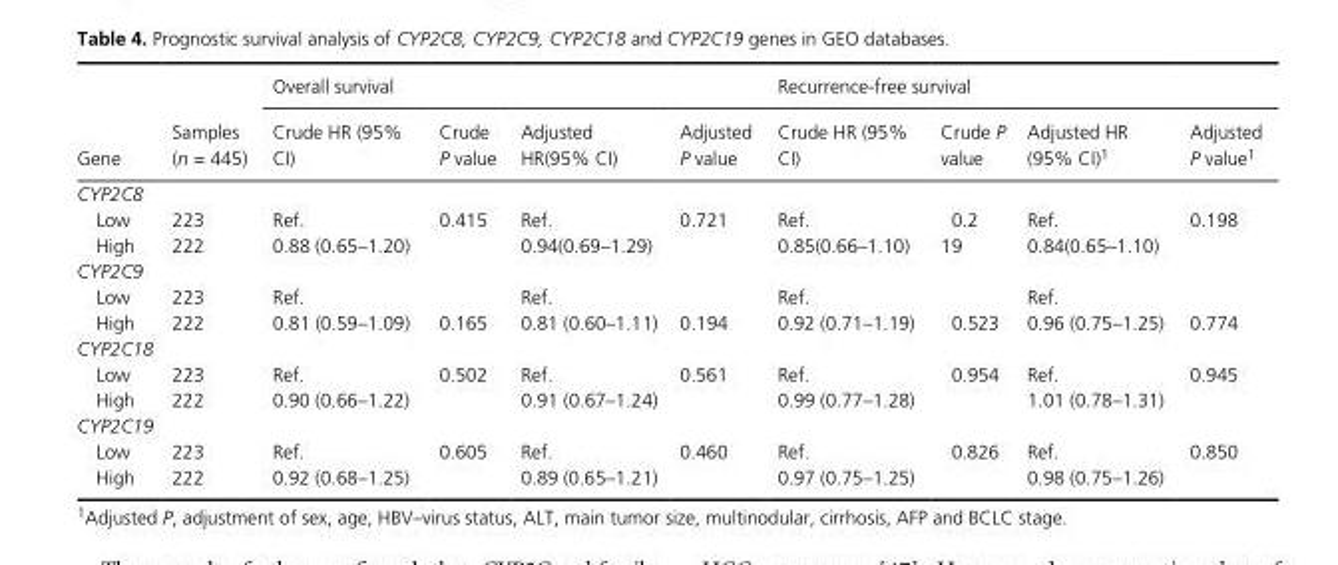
<table><thead><tr><td rowspan="2">Gene</td><td rowspan="2">Samples (n = 445)</td><td colspan="4">Overall survival</td><td colspan="4">Recurrence- free survival</td></tr><tr><td>Crude HR (95% CI)</td><td>Crude P value</td><td>Adjusted HR(95% CI)</td><td>Adjusted P value</td><td>Crude HR (95% CI)</td><td>Crude P value</td><td>Adjusted HR (95% CI)1</td><td>Adjusted P value1</td></tr></thead><tbody><tr><td colspan="10">CYP2C8</td></tr><tr><td>Low</td><td>223</td><td>Ref.</td><td>0.415</td><td>Ref.</td><td>0.721</td><td>Ref.</td><td>0.2</td><td>Ref.</td><td>0.198</td></tr><tr><td>High</td><td>222</td><td>0.88 (0.65–1.20)</td><td></td><td>0.94(0.69–1.29)</td><td></td><td>0.85(0.66–1.10)</td><td>19</td><td>0.84(0.65–1.10)</td><td></td></tr><tr><td colspan="10">CYP2C9</td></tr><tr><td>Low</td><td>223</td><td>Ref.</td><td></td><td>Ref.</td><td></td><td>Ref.</td><td></td><td>Ref.</td><td></td></tr><tr><td>High</td><td>222</td><td>0.81 (0.59–1.09)</td><td>0.165</td><td>0.81 (0.60–1.11)</td><td>0.194</td><td>0.92 (0.71–1.19)</td><td>0.523</td><td>0.96 (0.75–1.25)</td><td>0.774</td></tr><tr><td colspan="10">CYP2C18</td></tr><tr><td>Low</td><td>223</td><td>Ref.</td><td>0.502</td><td>Ref.</td><td>0.561</td><td>Ref.</td><td>0.954</td><td>Ref.</td><td>0.945</td></tr><tr><td>High</td><td>222</td><td>0.90 (0.66–1.22)</td><td></td><td>0.91 (0.67–1.24)</td><td></td><td>0.99 (0.77–1.28)</td><td></td><td>1.01 (0.78–1.31)</td><td></td></tr><tr><td colspan="10">CYP2C19</td></tr><tr><td>Low</td><td>223</td><td>Ref.</td><td>0.605</td><td>Ref.</td><td>0.460</td><td>Ref.</td><td>0.826</td><td>Ref.</td><td>0.850</td></tr><tr><td>High</td><td>222</td><td>0.92 (0.68–1.25)</td><td></td><td>0.89 (0.65–1.21)</td><td></td><td>0.97 (0.75–1.25)</td><td></td><td>0.98 (0.75–1.26)</td><td></td></tr></tbody></table>